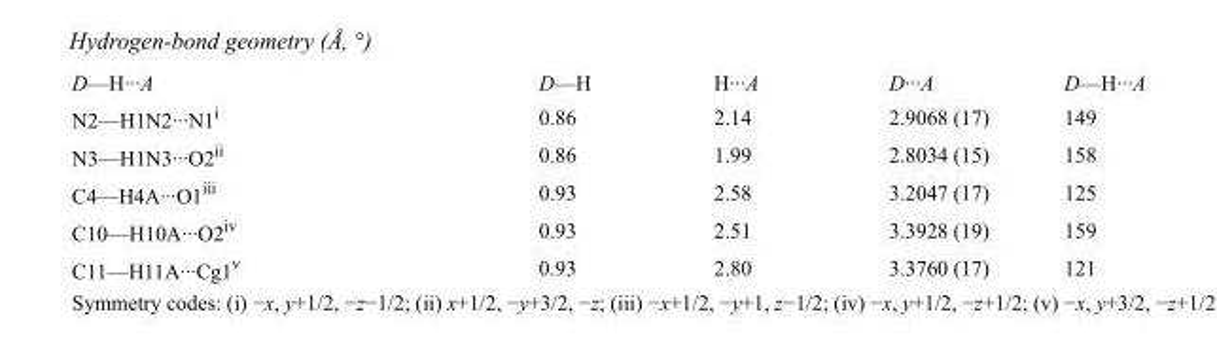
<table><tbody><tr><td>D—H···A</td><td>D—H</td><td>H···A</td><td>D···A</td><td>D—H···A</td></tr><tr><td>N2—H1N2···N1<sup>i</sup></td><td>0.86</td><td>2.14</td><td>2.9068 (17)</td><td>149</td></tr><tr><td>N3—H1N3···O2<sup>ii</sup></td><td>0.86</td><td>1.99</td><td>2.8034 (15)</td><td>158</td></tr><tr><td>C4—H4A···O1<sup>iii</sup></td><td>0.93</td><td>2.58</td><td>3.2047 (17)</td><td>125</td></tr><tr><td>C10—H10A···O2<sup>iv</sup></td><td>0.93</td><td>2.51</td><td>3.3928 (19)</td><td>159</td></tr><tr><td>C11—H11A···Cg1<sup>v</sup></td><td>0.93</td><td>2.80</td><td>3.3760 (17)</td><td>121</td></tr></tbody></table>